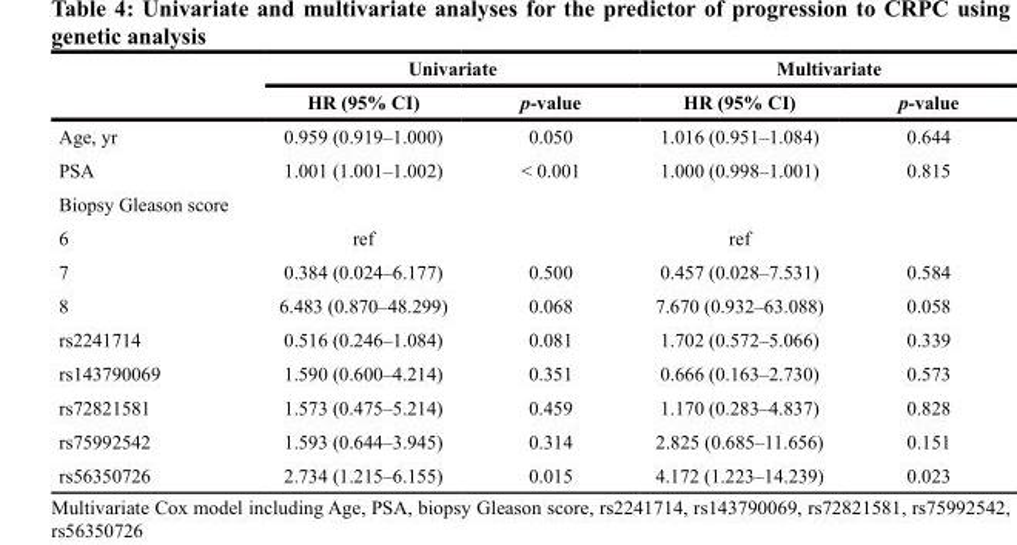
<table><thead><tr><td rowspan="2"></td><td colspan="2">Univariate</td><td colspan="2">Multivariate</td></tr><tr><td>HR (95% CI)</td><td>p-value</td><td>HR (95% CI)</td><td>p-value</td></tr></thead><tbody><tr><td>Age, yr</td><td>0.959 (0.919–1.000)</td><td>0.050</td><td>1.016 (0.951–1.084)</td><td>0.644</td></tr><tr><td>PSA</td><td>1.001 (1.001–1.002)</td><td>&lt; 0.001</td><td>1.000 (0.998–1.001)</td><td>0.815</td></tr><tr><td colspan="5">Biopsy Gleason score</td></tr><tr><td>6</td><td>ref</td><td></td><td>ref</td><td></td></tr><tr><td>7</td><td>0.384 (0.024–6.177)</td><td>0.500</td><td>0.457 (0.028–7.531)</td><td>0.584</td></tr><tr><td>8</td><td>6.483 (0.870–48.299)</td><td>0.068</td><td>7.670 (0.932–63.088)</td><td>0.058</td></tr><tr><td>rs2241714</td><td>0.516 (0.246–1.084)</td><td>0.081</td><td>1.702 (0.572–5.066)</td><td>0.339</td></tr><tr><td>rs143790069</td><td>1.590 (0.600–4.214)</td><td>0.351</td><td>0.666 (0.163–2.730)</td><td>0.573</td></tr><tr><td>rs72821581</td><td>1.573 (0.475–5.214)</td><td>0.459</td><td>1.170 (0.283–4.837)</td><td>0.828</td></tr><tr><td>rs75992542</td><td>1.593 (0.644–3.945)</td><td>0.314</td><td>2.825 (0.685–11.656)</td><td>0.151</td></tr><tr><td>rs56350726</td><td>2.734 (1.215–6.155)</td><td>0.015</td><td>4.172 (1.223–14.239)</td><td>0.023</td></tr></tbody></table>